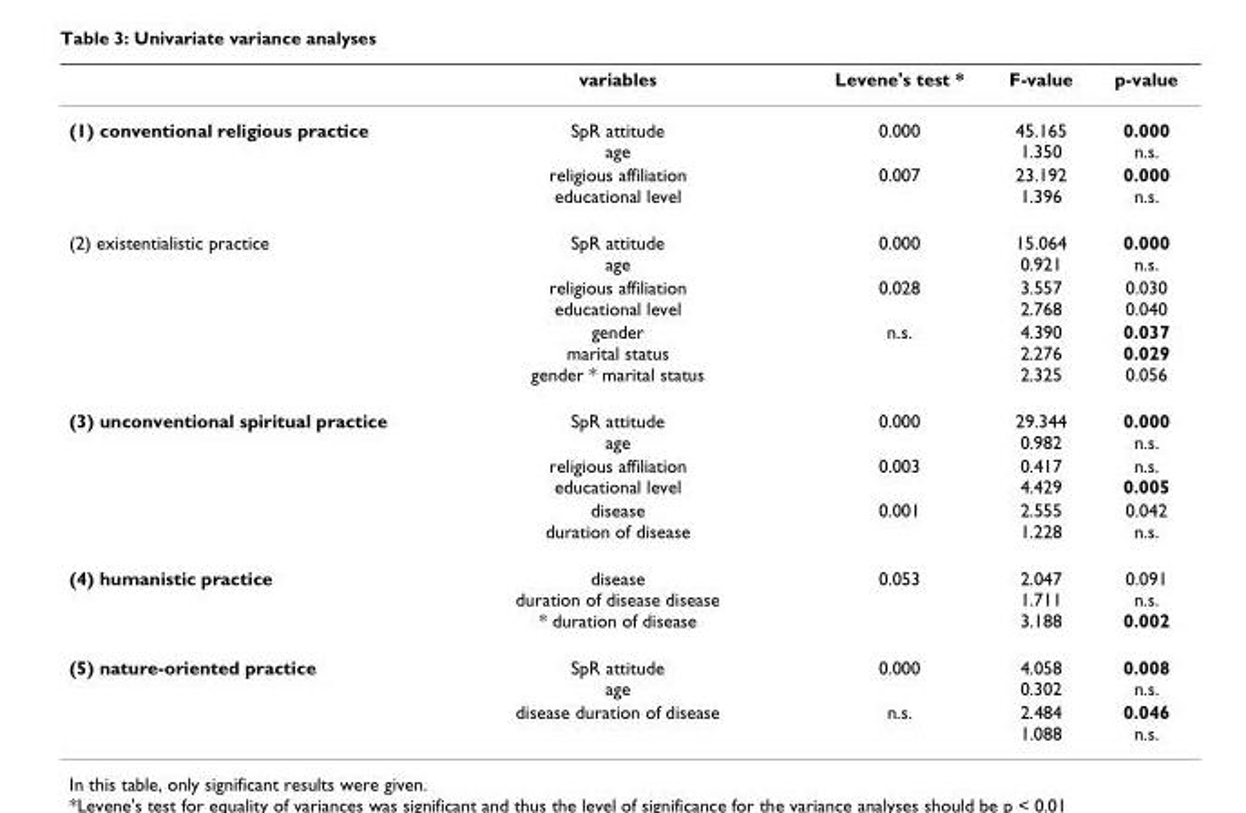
<table><thead><tr><td></td><td>variables</td><td>Levene&#x27;s test *</td><td>F-value</td><td>p-value</td></tr></thead><tbody><tr><td rowspan="2">(1) conventional religious practice</td><td>SpR attitude age</td><td>0.000</td><td>45.165 1.350</td><td>0.000 n.s.</td></tr><tr><td>religious affiliation educational level</td><td>0.007</td><td>23.192 1.396</td><td>0.000 n.s.</td></tr><tr><td rowspan="3">(2) existentialistic practice</td><td>SpR attitude age</td><td>0.000</td><td>15.064 0.921</td><td>0.000 n.s.</td></tr><tr><td>religious affiliation educational level</td><td>0.028</td><td>3.557 2.768</td><td>0.030 0.040</td></tr><tr><td>gender marital status gender * marital status</td><td>n.s.</td><td>4.390 2.276 2.325</td><td>0.037 0.029 0.056</td></tr><tr><td rowspan="3">(3) unconventional spiritual practice</td><td>SpR attitude age</td><td>0.000</td><td>29.344 0.982</td><td>0.000 n.s.</td></tr><tr><td>religious affiliation educational level</td><td>0.003</td><td>0.417 4.429</td><td>n.s. 0.005</td></tr><tr><td>disease duration of disease</td><td>0.001</td><td>2.555 1.228</td><td>0.042 n.s.</td></tr><tr><td>(4) humanistic practice</td><td>disease duration of disease disease * duration of disease</td><td>0.053</td><td>2.047 1.711 3.188</td><td>0.091 n.s. 0.002</td></tr><tr><td rowspan="2">(5) nature-oriented practice</td><td>SpR attitude age</td><td>0.000</td><td>4.058 0.302</td><td>0.008 n.s.</td></tr><tr><td>disease duration of disease</td><td>n.s.</td><td>2.484 1.088</td><td>0.046 n.s.</td></tr></tbody></table>